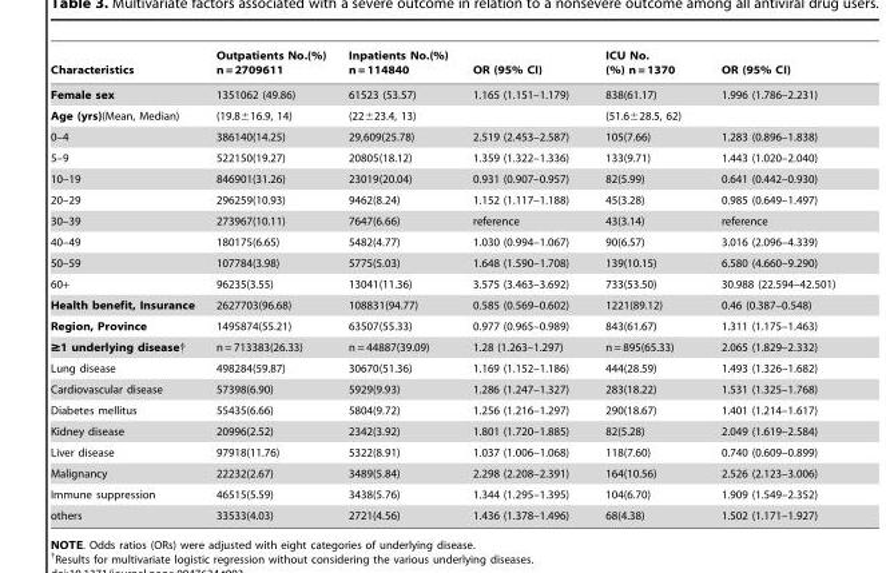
<table><thead><tr><td>Characteristics</td><td>Outpatients No.(%) n = 2709611</td><td>Inpatients No.(%) n = 114840</td><td>OR (95% CI)</td><td>ICU No. (%) n = 1370</td><td>OR (95% CI)</td></tr></thead><tbody><tr><td>Female sex</td><td>1351062 (49.86)</td><td>61523 (53.57)</td><td>1.165 (1.151–1.179)</td><td>838(61.17)</td><td>1.996 (1.786–2.231)</td></tr><tr><td>Age (yrs)(Mean, Median)</td><td>(19.8±16.9, 14)</td><td>(22±23.4, 13)</td><td></td><td>(51.6±28.5, 62)</td><td></td></tr><tr><td>0–4</td><td>386140(14.25)</td><td>29,609(25.78)</td><td>2.519 (2.453–2.587)</td><td>105(7.66)</td><td>1.283 (0.896–1.838)</td></tr><tr><td>5–9</td><td>522150(19.27)</td><td>20805(18.12)</td><td>1.359 (1.322–1.336)</td><td>133(9.71)</td><td>1.443 (1.020–2.040)</td></tr><tr><td>10–19</td><td>846901(31.26)</td><td>23019(20.04)</td><td>0.931 (0.907–0.957)</td><td>82(5.99)</td><td>0.641 (0.442–0.930)</td></tr><tr><td>20–29</td><td>296259(10.93)</td><td>9462(8.24)</td><td>1.152 (1.117–1.188)</td><td>45(3.28)</td><td>0.985 (0.649–1.497)</td></tr><tr><td>30–39</td><td>273967(10.11)</td><td>7647(6.66)</td><td>reference</td><td>43(3.14)</td><td>reference</td></tr><tr><td>40–49</td><td>180175(6.65)</td><td>5482(4.77)</td><td>1.030 (0.994–1.067)</td><td>90(6.57)</td><td>3.016 (2.096–4.339)</td></tr><tr><td>50–59</td><td>107784(3.98)</td><td>5775(5.03)</td><td>1.648 (1.590–1.708)</td><td>139(10.15)</td><td>6.580 (4.660–9.290)</td></tr><tr><td>60+</td><td>96235(3.55)</td><td>13041(11.36)</td><td>3.575 (3.463–3.692)</td><td>733(53.50)</td><td>30.988 (22.594–42.501)</td></tr><tr><td>Health benefit, Insurance</td><td>2627703(96.68)</td><td>108831(94.77)</td><td>0.585 (0.569–0.602)</td><td>1221(89.12)</td><td>0.46 (0.387–0.548)</td></tr><tr><td>Region, Province</td><td>1495874(55.21)</td><td>63507(55.33)</td><td>0.977 (0.965–0.989)</td><td>843(61.67)</td><td>1.311 (1.175–1.463)</td></tr><tr><td>≥1 underlying disease†</td><td>n = 713383(26.33)</td><td>n = 44887(39.09)</td><td>1.28 (1.263–1.297)</td><td>n = 895(65.33)</td><td>2.065 (1.829–2.332)</td></tr><tr><td>Lung disease</td><td>498284(59.87)</td><td>30670(51.36)</td><td>1.169 (1.152–1.186)</td><td>444(28.59)</td><td>1.493 (1.326–1.682)</td></tr><tr><td>Cardiovascular disease</td><td>57398(6.90)</td><td>5929(9.93)</td><td>1.286 (1.247–1.327)</td><td>283(18.22)</td><td>1.531 (1.325–1.768)</td></tr><tr><td>Diabetes mellitus</td><td>55435(6.66)</td><td>5804(9.72)</td><td>1.256 (1.216–1.297)</td><td>290(18.67)</td><td>1.401 (1.214–1.617)</td></tr><tr><td>Kidney disease</td><td>20996(2.52)</td><td>2342(3.92)</td><td>1.801 (1.720–1.885)</td><td>82(5.28)</td><td>2.049 (1.619–2.584)</td></tr><tr><td>Liver disease</td><td>97918(11.76)</td><td>5322(8.91)</td><td>1.037 (1.006–1.068)</td><td>118(7.60)</td><td>0.740 (0.609–0.899)</td></tr><tr><td>Malignancy</td><td>22232(2.67)</td><td>3489(5.84)</td><td>2.298 (2.208–2.391)</td><td>164(10.56)</td><td>2.526 (2.123–3.006)</td></tr><tr><td>Immune suppression</td><td>46515(5.59)</td><td>3438(5.76)</td><td>1.344 (1.295–1.395)</td><td>104(6.70)</td><td>1.909 (1.549–2.352)</td></tr><tr><td>others</td><td>33533(4.03)</td><td>2721(4.56)</td><td>1.436 (1.378–1.496)</td><td>68(4.38)</td><td>1.502 (1.171–1.927)</td></tr></tbody></table>